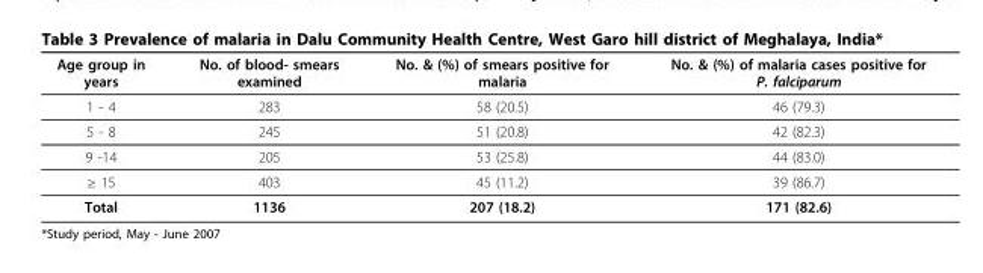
<table><thead><tr><td>Age group in years</td><td>No. of blood- smears examined</td><td>No. &amp; (%) of smears positive for malaria</td><td>No. &amp; (%) of malaria cases positive for P. falciparum</td></tr></thead><tbody><tr><td>1 - 4</td><td>283</td><td>58 (20.5)</td><td>46 (79.3)</td></tr><tr><td>5 - 8</td><td>245</td><td>51 (20.8)</td><td>42 (82.3)</td></tr><tr><td>9 -14</td><td>205</td><td>53 (25.8)</td><td>44 (83.0)</td></tr><tr><td>≥ 15</td><td>403</td><td>45 (11.2)</td><td>39 (86.7)</td></tr><tr><td>Total</td><td>1136</td><td>207 (18.2)</td><td>171 (82.6)</td></tr></tbody></table>